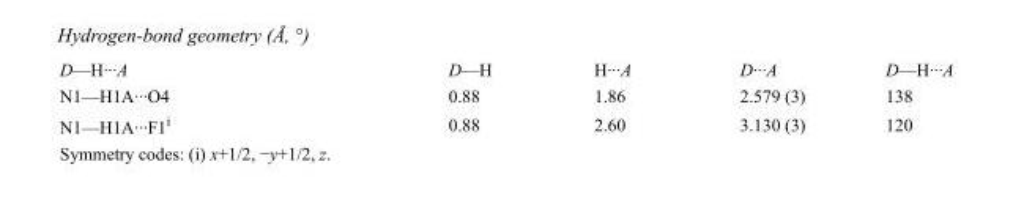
<table><tbody><tr><td>D—H···A</td><td>D—H</td><td>H···A</td><td>D···A</td><td>D—H···A</td></tr><tr><td>N1—H1A···O4</td><td>0.88</td><td>1.86</td><td>2.579 (3)</td><td>138</td></tr><tr><td>N1—H1A···F1<sup>i</sup></td><td>0.88</td><td>2.60</td><td>3.130 (3)</td><td>120</td></tr></tbody></table>